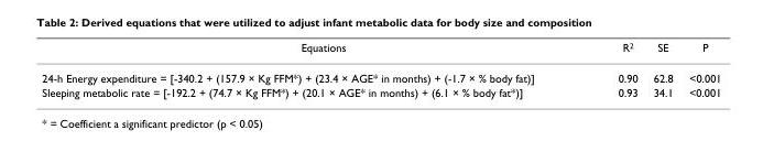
<table><thead><tr><td>Equations</td><td>R<sup>2</sup></td><td>SE</td><td>P</td></tr></thead><tbody><tr><td>24-h Energy expenditure = [-340.2 + (157.9 × Kg FFM*) + (23.4 × AGE* in months) + (-1.7 × % body fat)]</td><td>0.90</td><td>62.8</td><td>&lt;0.001</td></tr><tr><td>Sleeping metabolic rate = [-192.2 + (74.7 × Kg FFM*) + (20.1 × AGE* in months) + (6.1 × % body fat*)]</td><td>0.93</td><td>34.1</td><td>&lt;0.001</td></tr></tbody></table>